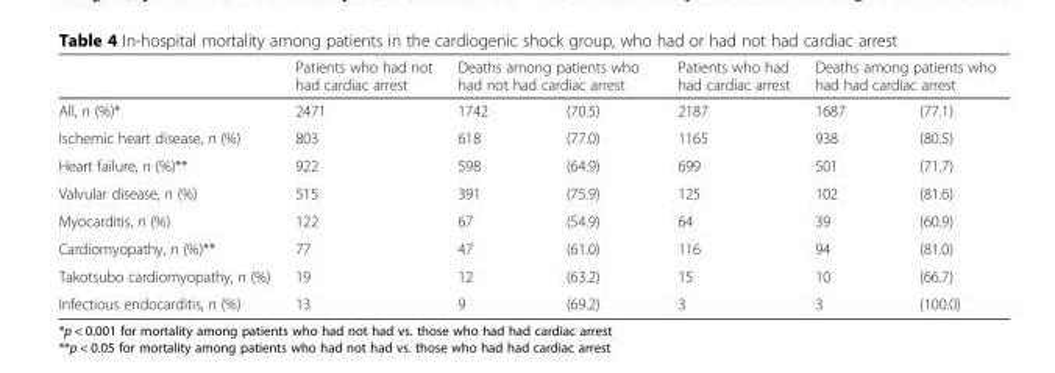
<table><thead><tr><td rowspan="2">All, n (%)*</td><td rowspan="2">Patients who had not had cardiac arrest 2471</td><td colspan="2">Deaths among patients who had not had cardiac arrest</td><td rowspan="2">Patients who had had cardiac arrest 2187</td><td colspan="2">Deaths among patients who had had cardiac arrest</td></tr><tr><td>1742</td><td>(70.5)</td><td>1687</td><td>(77.1)</td></tr></thead><tbody><tr><td>Ischemic heart disease, n (%)</td><td>803</td><td>618</td><td>(77.0)</td><td>1165</td><td>938</td><td>(80.5)</td></tr><tr><td>Heart failure, n (%)**</td><td>922</td><td>598</td><td>(64.9)</td><td>699</td><td>501</td><td>(71.7)</td></tr><tr><td>Valvular disease, n (%)</td><td>515</td><td>391</td><td>(75.9)</td><td>125</td><td>102</td><td>(81.6)</td></tr><tr><td>Myocarditis, n (%)</td><td>122</td><td>67</td><td>(54.9)</td><td>64</td><td>39</td><td>(60.9)</td></tr><tr><td>Cardiomyopathy, n (%)**</td><td>77</td><td>47</td><td>(61.0)</td><td>116</td><td>94</td><td>(81.0)</td></tr><tr><td>Takotsubo cardiomyopathy, n (%)</td><td>19</td><td>12</td><td>(63.2)</td><td>15</td><td>10</td><td>(66.7)</td></tr><tr><td>Infectious endocarditis, n (%)</td><td>13</td><td>9</td><td>(69.2)</td><td>3</td><td>3</td><td>(100.0)</td></tr></tbody></table>